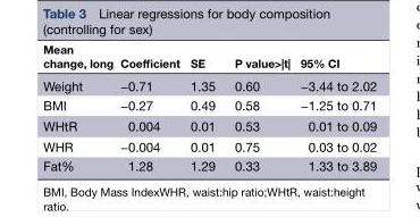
<table><thead><tr><td>Mean change, long</td><td>Coefficient</td><td>SE</td><td>P value&gt;|t|</td><td>95% CI</td></tr></thead><tbody><tr><td>Weight</td><td>−0.71</td><td>1.35</td><td>0.60</td><td>−3.44 to 2.02</td></tr><tr><td>BMI</td><td>−0.27</td><td>0.49</td><td>0.58</td><td>−1.25 to 0.71</td></tr><tr><td>WHtR</td><td>0.004</td><td>0.01</td><td>0.53</td><td>0.01 to 0.09</td></tr><tr><td>WHR</td><td>−0.004</td><td>0.01</td><td>0.75</td><td>0.03 to 0.02</td></tr><tr><td>Fat%</td><td>1.28</td><td>1.29</td><td>0.33</td><td>1.33 to 3.89</td></tr></tbody></table>